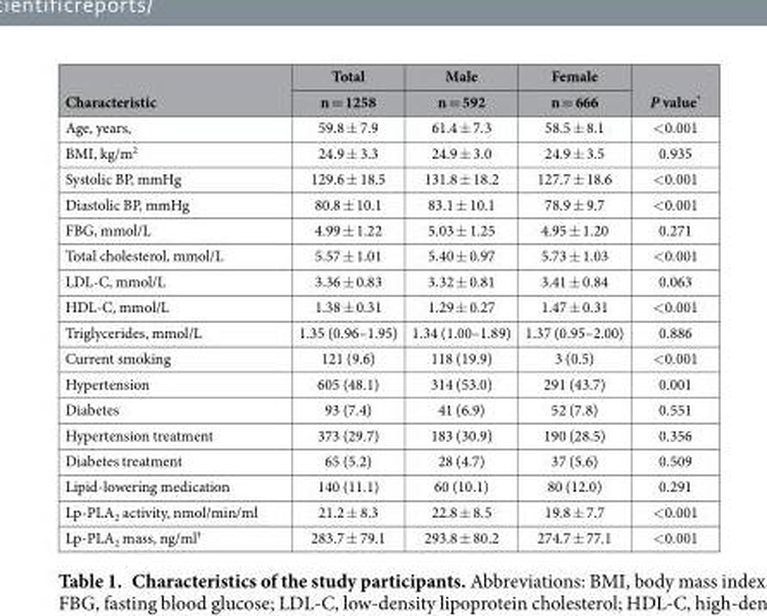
<table><thead><tr><td rowspan="2">Characteristic</td><td rowspan="2">Total n = 1258</td><td rowspan="2">Male n = 592</td><td rowspan="2">Female n = 666</td><td rowspan="2">P value*</td></tr><tr></tr></thead><tbody><tr><td>Age, years,</td><td>59.8 ± 7.9</td><td>61.4 ± 7.3</td><td>58.5 ± 8.1</td><td>&lt; 0.001</td></tr><tr><td>BMI, kg/m<sup>2</sup></td><td>24.9 ± 3.3</td><td>24.9 ± 3.0</td><td>24.9 ± 3.5</td><td>0.935</td></tr><tr><td>Systolic BP, mmHg</td><td>129.6 ± 18.5</td><td>131.8 ± 18.2</td><td>127.7 ± 18.6</td><td>&lt; 0.001</td></tr><tr><td>Diastolic BP, mmHg</td><td>80.8 ± 10.1</td><td>83.1 ± 10.1</td><td>78.9 ± 9.7</td><td>&lt; 0.001</td></tr><tr><td>FBG, mmol/L</td><td>4.99 ± 1.22</td><td>5.03 ± 1.25</td><td>4.95 ± 1.20</td><td>0.271</td></tr><tr><td>Total cholesterol, mmol/L</td><td>5.57 ± 1.01</td><td>5.40 ± 0.97</td><td>5.73 ± 1.03</td><td>&lt; 0.001</td></tr><tr><td>LDL-C, mmol/L</td><td>3.36 ± 0.83</td><td>3.32 ± 0.81</td><td>3.41 ± 0.84</td><td>0.063</td></tr><tr><td>HDL-C, mmol/L</td><td>1.38 ± 0.31</td><td>1.29 ± 0.27</td><td>1.47 ± 0.31</td><td>&lt; 0.001</td></tr><tr><td>Triglycerides, mmol/L</td><td>1.35 (0.96–1.95)</td><td>1.34 (1.00–1.89)</td><td>1.37 (0.95–2.00)</td><td>0.886</td></tr><tr><td>Current smoking</td><td>121 (9.6)</td><td>118 (19.9)</td><td>3 (0.5)</td><td>&lt; 0.001</td></tr><tr><td>Hypertension</td><td>605 (48.1)</td><td>314 (53.0)</td><td>291 (43.7)</td><td>0.001</td></tr><tr><td>Diabetes</td><td>93 (7.4)</td><td>41 (6.9)</td><td>52 (7.8)</td><td>0.551</td></tr><tr><td>Hypertension treatment</td><td>373 (29.7)</td><td>183 (30.9)</td><td>190 (28.5)</td><td>0.356</td></tr><tr><td>Diabetes treatment</td><td>65 (5.2)</td><td>28 (4.7)</td><td>37 (5.6)</td><td>0.509</td></tr><tr><td>Lipid-lowering medication</td><td>140 (11.1)</td><td>60 (10.1)</td><td>80 (12.0)</td><td>0.291</td></tr><tr><td>Lp-PLA<sub>2</sub> activity, nmol/min/ml</td><td>21.2 ± 8.3</td><td>22.8 ± 8.5</td><td>19.8 ± 7.7</td><td>&lt; 0.001</td></tr><tr><td>Lp-PLA<sub>2</sub> mass, ng/ml†</td><td>283.7 ± 79.1</td><td>293.8 ± 80.2</td><td>274.7 ± 77.1</td><td>&lt; 0.001</td></tr></tbody></table>